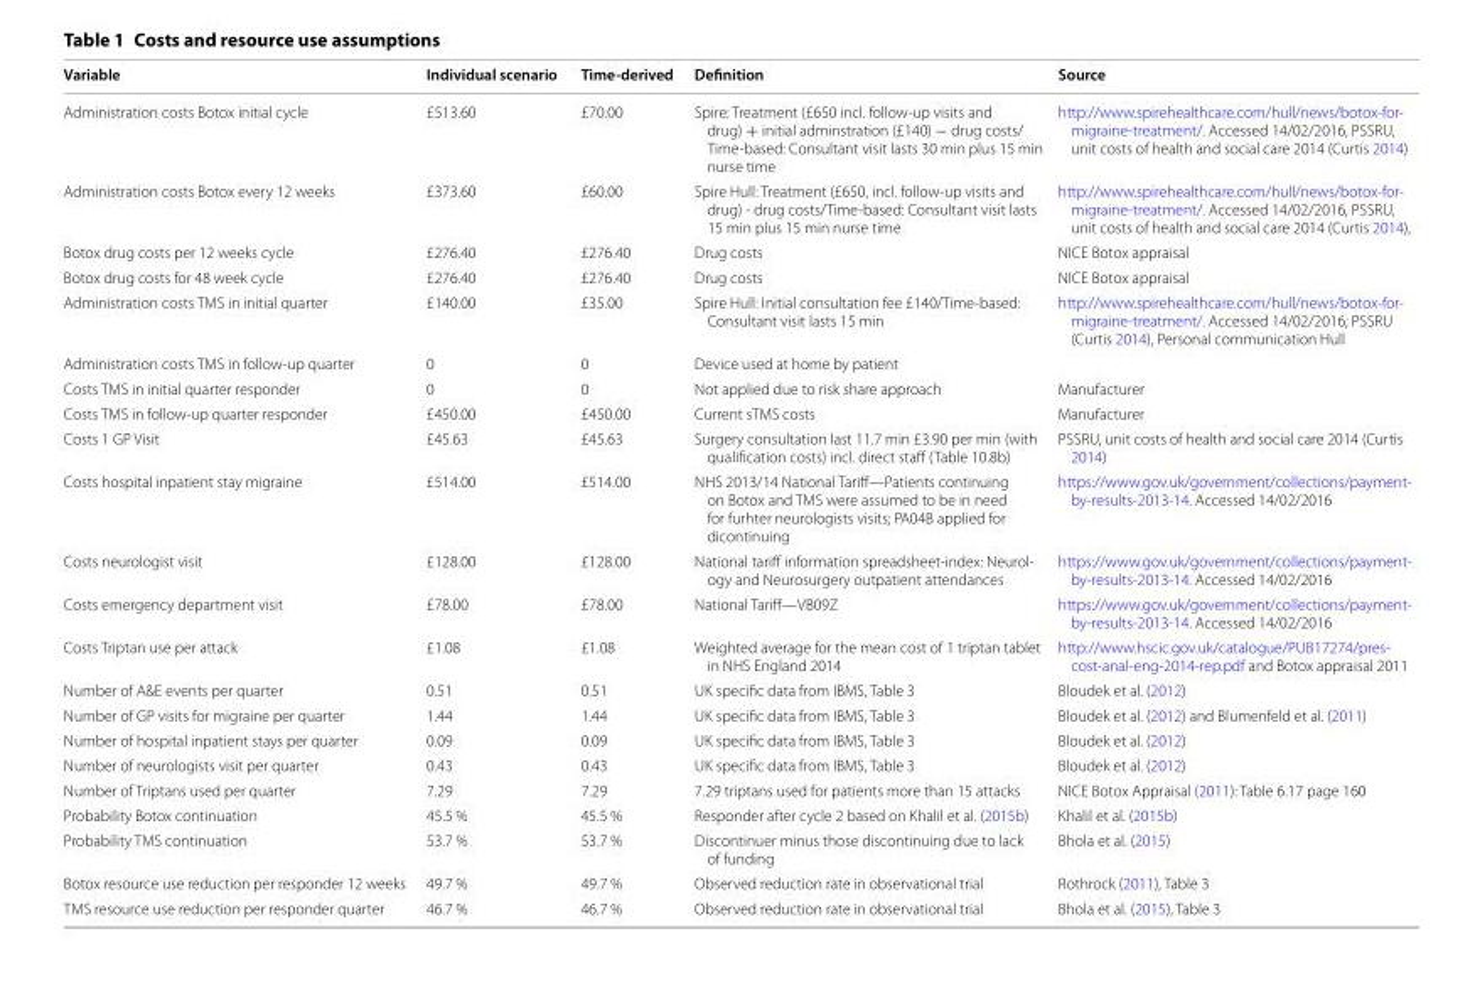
<table><thead><tr><td>Variable</td><td>Individual scenario</td><td>Time-derived</td><td>Definition</td><td>Source</td></tr></thead><tbody><tr><td>Administration costs Botox initial cycle</td><td>£513.60</td><td>£70.00</td><td>Spire: Treatment (£650 incl. follow-up visits and drug) + initial adminstration (£140) − drug costs/ Time-based: Consultant visit lasts 30 min plus 15 min nurse time</td><td>http://www.spirehealthcare.com/hull/news/botox-for- migraine-treatment/. Accessed 14/02/2016, PSSRU, unit costs of health and social care 2014 (Curtis 2014)</td></tr><tr><td>Administration costs Botox every 12 weeks</td><td>£373.60</td><td>£60.00</td><td>Spire Hull: Treatment (£650, incl. follow-up visits and drug) - drug costs/Time-based: Consultant visit lasts 15 min plus 15 min nurse time</td><td>http://www.spirehealthcare.com/hull/news/botox-for- migraine-treatment/. Accessed 14/02/2016, PSSRU, unit costs of health and social care 2014 (Curtis 2014),</td></tr><tr><td>Botox drug costs per 12 weeks cycle</td><td>£276.40</td><td>£276.40</td><td>Drug costs</td><td>NICE Botox appraisal</td></tr><tr><td>Botox drug costs for 48 week cycle</td><td>£276.40</td><td>£276.40</td><td>Drug costs</td><td>NICE Botox appraisal</td></tr><tr><td>Administration costs TMS in initial quarter</td><td>£140.00</td><td>£35.00</td><td>Spire Hull: Initial consultation fee £140/Time-based: Consultant visit lasts 15 min</td><td>http://www.spirehealthcare.com/hull/news/botox-for- migraine-treatment/. Accessed 14/02/2016; PSSRU (Curtis 2014), Personal communication Hull</td></tr><tr><td>Administration costs TMS in follow-up quarter</td><td>0</td><td>0</td><td>Device used at home by patient</td><td></td></tr><tr><td>Costs TMS in initial quarter responder</td><td>0</td><td>0</td><td>Not applied due to risk share approach</td><td>Manufacturer</td></tr><tr><td>Costs TMS in follow-up quarter responder</td><td>£450.00</td><td>£450.00</td><td>Current sTMS costs</td><td>Manufacturer</td></tr><tr><td>Costs 1 GP Visit</td><td>£45.63</td><td>£45.63</td><td>Surgery consultation last 11.7 min £3.90 per min (with qualification costs) incl. direct staff (Table 10.8b)</td><td>PSSRU, unit costs of health and social care 2014 (Curtis 2014)</td></tr><tr><td>Costs hospital inpatient stay migraine</td><td>£514.00</td><td>£514.00</td><td>NHS 2013/14 National Tariff—Patients continuing on Botox and TMS were assumed to be in need for furhter neurologists visits; PA04B applied for dicontinuing</td><td>https://www.gov.uk/government/collections/payment- by-results-2013-14. Accessed 14/02/2016</td></tr><tr><td>Costs neurologist visit</td><td>£128.00</td><td>£128.00</td><td>National tariff information spreadsheet-index: Neurol- ogy and Neurosurgery outpatient attendances</td><td>https://www.gov.uk/government/collections/payment- by-results-2013-14. Accessed 14/02/2016</td></tr><tr><td>Costs emergency department visit</td><td>£78.00</td><td>£78.00</td><td>National Tariff—VB09Z</td><td>https://www.gov.uk/government/collections/payment- by-results-2013-14. Accessed 14/02/2016</td></tr><tr><td>Costs Triptan use per attack</td><td>£1.08</td><td>£1.08</td><td>Weighted average for the mean cost of 1 triptan tablet in NHS England 2014</td><td>http://www.hscic.gov.uk/catalogue/PUB17274/pres- cost-anal-eng-2014-rep.pdf and Botox appraisal 2011</td></tr><tr><td>Number of A&amp;E events per quarter</td><td>0.51</td><td>0.51</td><td>UK specific data from IBMS, Table 3</td><td>Bloudek et al. (2012)</td></tr><tr><td>Number of GP visits for migraine per quarter</td><td>1.44</td><td>1.44</td><td>UK specific data from IBMS, Table 3</td><td>Bloudek et al. (2012) and Blumenfeld et al. (2011)</td></tr><tr><td>Number of hospital inpatient stays per quarter</td><td>0.09</td><td>0.09</td><td>UK specific data from IBMS, Table 3</td><td>Bloudek et al. (2012)</td></tr><tr><td>Number of neurologists visit per quarter</td><td>0.43</td><td>0.43</td><td>UK specific data from IBMS, Table 3</td><td>Bloudek et al. (2012)</td></tr><tr><td>Number of Triptans used per quarter</td><td>7.29</td><td>7.29</td><td>7.29 triptans used for patients more than 15 attacks</td><td>NICE Botox Appraisal (2011): Table 6.17 page 160</td></tr><tr><td>Probability Botox continuation</td><td>45.5 %</td><td>45.5 %</td><td>Responder after cycle 2 based on Khalil et al. (2015b)</td><td>Khalil et al. (2015b)</td></tr><tr><td>Probability TMS continuation</td><td>53.7 %</td><td>53.7 %</td><td>Discontinuer minus those discontinuing due to lack of funding</td><td>Bhola et al. (2015)</td></tr><tr><td>Botox resource use reduction per responder 12 weeks</td><td>49.7 %</td><td>49.7 %</td><td>Observed reduction rate in observational trial</td><td>Rothrock (2011), Table 3</td></tr><tr><td>TMS resource use reduction per responder quarter</td><td>46.7 %</td><td>46.7 %</td><td>Observed reduction rate in observational trial</td><td>Bhola et al. (2015), Table 3</td></tr></tbody></table>